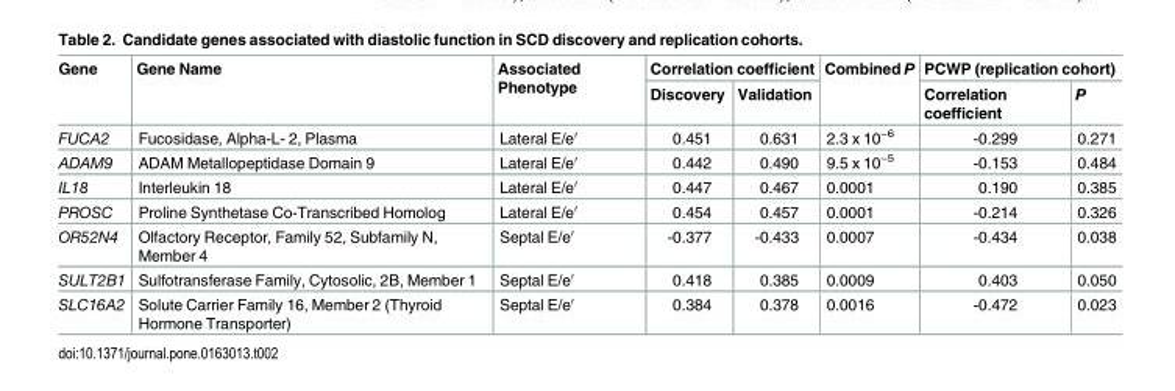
<table><thead><tr><td rowspan="2">Gene</td><td rowspan="2">Gene Name</td><td rowspan="2">Associated Phenotype</td><td colspan="2">Correlation coefficient</td><td rowspan="2">Combined P</td><td colspan="2">PCWP (replication cohort)</td></tr><tr><td>Discovery</td><td>Validation</td><td>Correlation coefficient</td><td>P</td></tr></thead><tbody><tr><td>FUCA2</td><td>Fucosidase, Alpha-L- 2, Plasma</td><td>Lateral E/e′</td><td>0.451</td><td>0.631</td><td>2.3 x 10<sup>−6</sup></td><td>-0.299</td><td>0.271</td></tr><tr><td>ADAM9</td><td>ADAM Metallopeptidase Domain 9</td><td>Lateral E/e′</td><td>0.442</td><td>0.490</td><td>9.5 x 10<sup>−5</sup></td><td>-0.153</td><td>0.484</td></tr><tr><td>IL18</td><td>Interleukin 18</td><td>Lateral E/e′</td><td>0.447</td><td>0.467</td><td>0.0001</td><td>0.190</td><td>0.385</td></tr><tr><td>PROSC</td><td>Proline Synthetase Co-Transcribed Homolog</td><td>Lateral E/e′</td><td>0.454</td><td>0.457</td><td>0.0001</td><td>-0.214</td><td>0.326</td></tr><tr><td>OR52N4</td><td>Olfactory Receptor, Family 52, Subfamily N, Member 4</td><td>Septal E/e′</td><td>-0.377</td><td>-0.433</td><td>0.0007</td><td>-0.434</td><td>0.038</td></tr><tr><td>SULT2B1</td><td>Sulfotransferase Family, Cytosolic, 2B, Member 1</td><td>Septal E/e′</td><td>0.418</td><td>0.385</td><td>0.0009</td><td>0.403</td><td>0.050</td></tr><tr><td>SLC16A2</td><td>Solute Carrier Family 16, Member 2 (Thyroid Hormone Transporter)</td><td>Septal E/e′</td><td>0.384</td><td>0.378</td><td>0.0016</td><td>-0.472</td><td>0.023</td></tr></tbody></table>